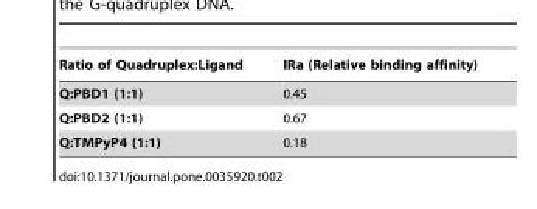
<table><thead><tr><td>Ratio of Quadruplex:Ligand</td><td>IRa (Relative binding affinity)</td></tr></thead><tbody><tr><td>Q:PBD1 (1:1)</td><td>0.45</td></tr><tr><td>Q:PBD2 (1:1)</td><td>0.67</td></tr><tr><td>Q:TMPyP4 (1:1)</td><td>0.18</td></tr></tbody></table>